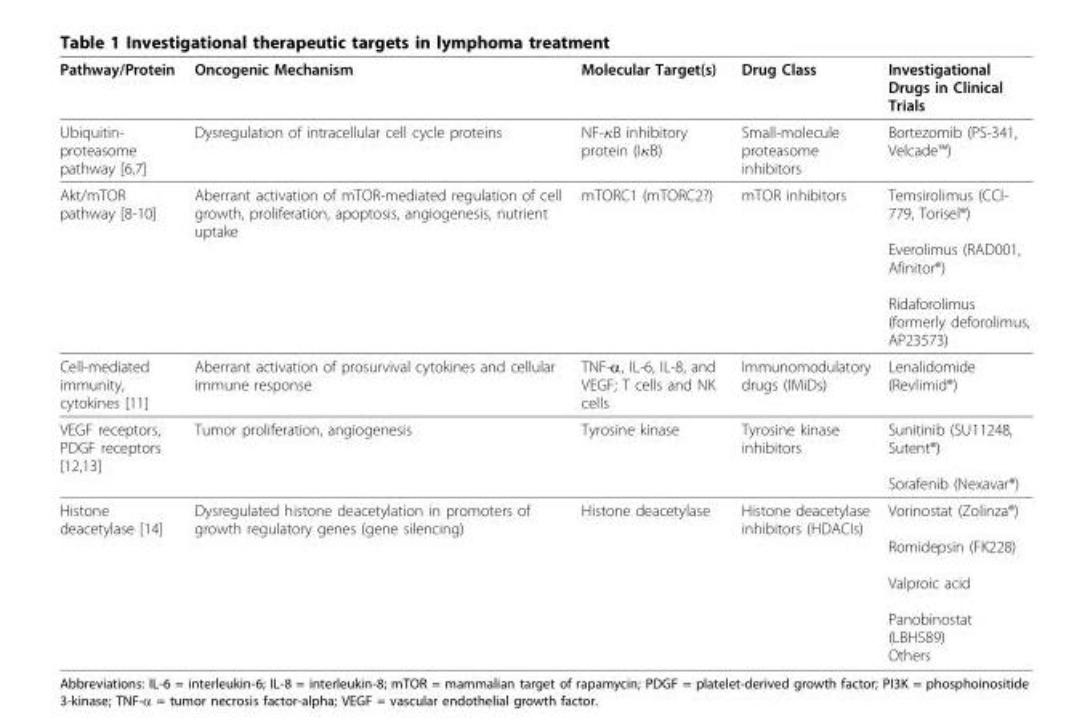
<table><thead><tr><td>Pathway/Protein</td><td>Oncogenic Mechanism</td><td>Molecular Target(s)</td><td>Drug Class</td><td>Investigational Drugs in Clinical Trials</td></tr></thead><tbody><tr><td>Ubiquitin- proteasome pathway [6,7]</td><td>Dysregulation of intracellular cell cycle proteins</td><td>NF-κB inhibitory protein (IκB)</td><td>Small-molecule proteasome inhibitors</td><td>Bortezomib (PS-341, Velcade™)</td></tr><tr><td>Akt/mTOR pathway [8-10]</td><td>Aberrant activation of mTOR-mediated regulation of cell growth, proliferation, apoptosis, angiogenesis, nutrient uptake</td><td>mTORC1 (mTORC2?)</td><td>mTOR inhibitors</td><td>Temsirolimus (CCI- 779, Torisel<sup>®</sup>) Everolimus (RAD001, Afinitor<sup>®</sup>) Ridaforolimus (formerly deforolimus, AP23573)</td></tr><tr><td>Cell-mediated immunity, cytokines [11]</td><td>Aberrant activation of prosurvival cytokines and cellular immune response</td><td>TNF-α, IL-6, IL-8, and VEGF; T cells and NK cells</td><td>Immunomodulatory drugs (IMiDs)</td><td>Lenalidomide (Revlimid<sup>®</sup>)</td></tr><tr><td>VEGF receptors, PDGF receptors [12,13]</td><td>Tumor proliferation, angiogenesis</td><td>Tyrosine kinase</td><td>Tyrosine kinase inhibitors</td><td>Sunitinib (SU11248, Sutent<sup>®</sup>) Sorafenib (Nexavar<sup>®</sup>)</td></tr><tr><td>Histone deacetylase [14]</td><td>Dysregulated histone deacetylation in promoters of growth regulatory genes (gene silencing)</td><td>Histone deacetylase</td><td>Histone deacetylase inhibitors (HDACIs)</td><td>Vorinostat (Zolinza<sup>®</sup>) Romidepsin (FK228) Valproic acid Panobinostat (LBH589) Others</td></tr></tbody></table>